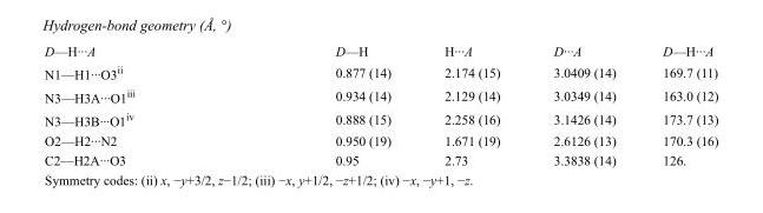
<table><tbody><tr><td>D—H···A</td><td>D—H</td><td>H···A</td><td>D···A</td><td>D—H···A</td></tr><tr><td>N1—H1···O3<sup>ii</sup></td><td>0.877 (14)</td><td>2.174 (15)</td><td>3.0409 (14)</td><td>169.7 (11)</td></tr><tr><td>N3—H3A···O1<sup>iii</sup></td><td>0.934 (14)</td><td>2.129 (14)</td><td>3.0349 (14)</td><td>163.0 (12)</td></tr><tr><td>N3—H3B···O1<sup>iv</sup></td><td>0.888 (15)</td><td>2.258 (16)</td><td>3.1426 (14)</td><td>173.7 (13)</td></tr><tr><td>O2—H2···N2</td><td>0.950 (19)</td><td>1.671 (19)</td><td>2.6126 (13)</td><td>170.3 (16)</td></tr><tr><td>C2—H2A···O3</td><td>0.95</td><td>2.73</td><td>3.3838 (14)</td><td>126.</td></tr></tbody></table>